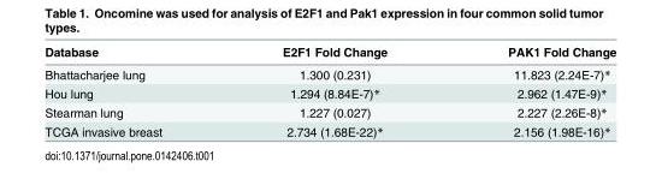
<table><thead><tr><td>Database</td><td>E2F1 Fold Change</td><td>PAK1 Fold Change</td></tr></thead><tbody><tr><td>Bhattacharjee lung</td><td>1.300 (0.231)</td><td>11.823 (2.24E-7)*</td></tr><tr><td>Hou lung</td><td>1.294 (8.84E-7)*</td><td>2.962 (1.47E-9)*</td></tr><tr><td>Stearman lung</td><td>1.227 (0.027)</td><td>2.227 (2.26E-8)*</td></tr><tr><td>TCGA invasive breast</td><td>2.734 (1.68E-22)*</td><td>2.156 (1.98E-16)*</td></tr></tbody></table>